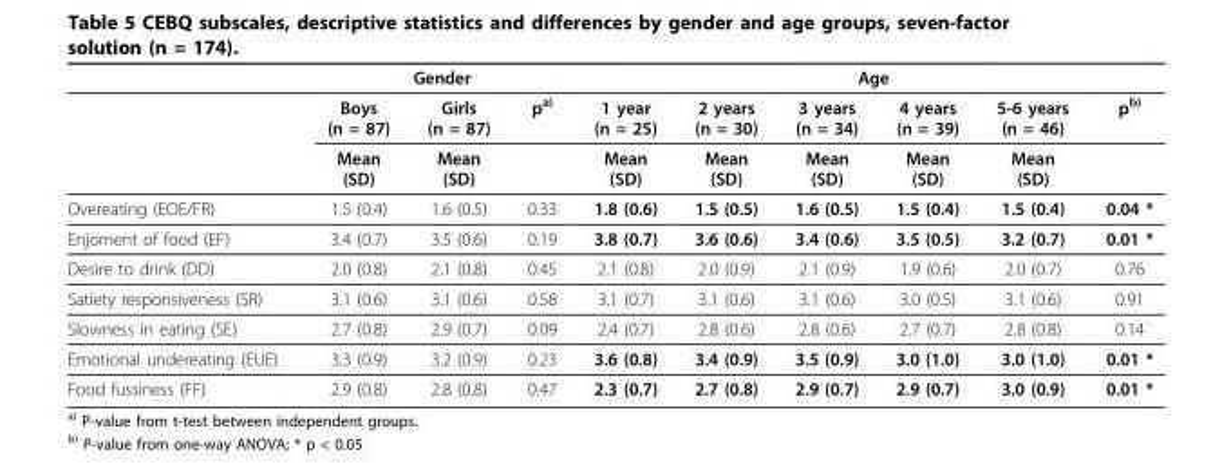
<table><thead><tr><td rowspan="2"></td><td colspan="3">Gender</td><td colspan="6">Age</td></tr><tr><td>Boys (n = 87)</td><td>Girls (n = 87)</td><td>p<sup>a)</sup></td><td>1 year (n = 25)</td><td>2 years (n = 30)</td><td>3 years (n = 34)</td><td>4 years (n = 39)</td><td>5-6 years (n = 46)</td><td>p<sup>b)</sup></td></tr></thead><tbody><tr><td></td><td>Mean (SD)</td><td>Mean (SD)</td><td></td><td>Mean (SD)</td><td>Mean (SD)</td><td>Mean (SD)</td><td>Mean (SD)</td><td>Mean (SD)</td><td></td></tr><tr><td>Overeating (EOE/FR)</td><td>1.5 (0.4)</td><td>1.6 (0.5)</td><td>0.33</td><td>1.8 (0.6)</td><td>1.5 (0.5)</td><td>1.6 (0.5)</td><td>1.5 (0.4)</td><td>1.5 (0.4)</td><td>0.04 *</td></tr><tr><td>Enjoment of food (EF)</td><td>3.4 (0.7)</td><td>3.5 (0.6)</td><td>0.19</td><td>3.8 (0.7)</td><td>3.6 (0.6)</td><td>3.4 (0.6)</td><td>3.5 (0.5)</td><td>3.2 (0.7)</td><td>0.01 *</td></tr><tr><td>Desire to drink (DD)</td><td>2.0 (0.8)</td><td>2.1 (0.8)</td><td>0.45</td><td>2.1 (0.8)</td><td>2.0 (0.9)</td><td>2.1 (0.9)</td><td>1.9 (0.6)</td><td>2.0 (0.7)</td><td>0.76</td></tr><tr><td>Satiety responsiveness (SR)</td><td>3.1 (0.6)</td><td>3.1 (0.6)</td><td>0.58</td><td>3.1 (0.7)</td><td>3.1 (0.6)</td><td>3.1 (0.6)</td><td>3.0 (0.5)</td><td>3.1 (0.6)</td><td>0.91</td></tr><tr><td>Slowness in eating (SE)</td><td>2.7 (0.8)</td><td>2.9 (0.7)</td><td>0.09</td><td>2.4 (0.7)</td><td>2.8 (0.6)</td><td>2.8 (0.6)</td><td>2.7 (0.7)</td><td>2.8 (0.8)</td><td>0.14</td></tr><tr><td>Emotional undereating (EUE)</td><td>3.3 (0.9)</td><td>3.2 (0.9)</td><td>0.23</td><td>3.6 (0.8)</td><td>3.4 (0.9)</td><td>3.5 (0.9)</td><td>3.0 (1.0)</td><td>3.0 (1.0)</td><td>0.01 *</td></tr><tr><td>Food fussiness (FF)</td><td>2.9 (0.8)</td><td>2.8 (0.8)</td><td>0.47</td><td>2.3 (0.7)</td><td>2.7 (0.8)</td><td>2.9 (0.7)</td><td>2.9 (0.7)</td><td>3.0 (0.9)</td><td>0.01 *</td></tr></tbody></table>